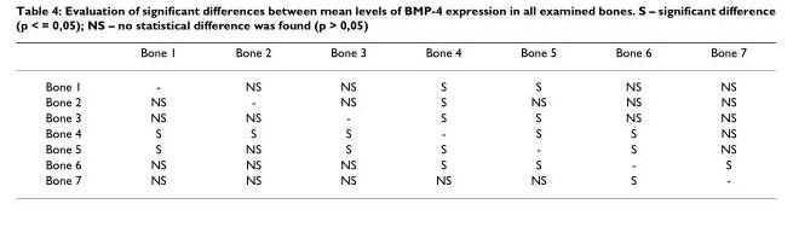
<table><thead><tr><td></td><td>Bone 1</td><td>Bone 2</td><td>Bone 3</td><td>Bone 4</td><td>Bone 5</td><td>Bone 6</td><td>Bone 7</td></tr></thead><tbody><tr><td>Bone 1</td><td>-</td><td>NS</td><td>NS</td><td>S</td><td>S</td><td>NS</td><td>NS</td></tr><tr><td>Bone 2</td><td>NS</td><td>-</td><td>NS</td><td>S</td><td>NS</td><td>NS</td><td>NS</td></tr><tr><td>Bone 3</td><td>NS</td><td>NS</td><td>-</td><td>S</td><td>S</td><td>NS</td><td>NS</td></tr><tr><td>Bone 4</td><td>S</td><td>S</td><td>S</td><td>-</td><td>S</td><td>S</td><td>NS</td></tr><tr><td>Bone 5</td><td>S</td><td>NS</td><td>S</td><td>S</td><td>-</td><td>S</td><td>NS</td></tr><tr><td>Bone 6</td><td>NS</td><td>NS</td><td>NS</td><td>S</td><td>S</td><td>-</td><td>S</td></tr><tr><td>Bone 7</td><td>NS</td><td>NS</td><td>NS</td><td>NS</td><td>NS</td><td>S</td><td>-</td></tr></tbody></table>